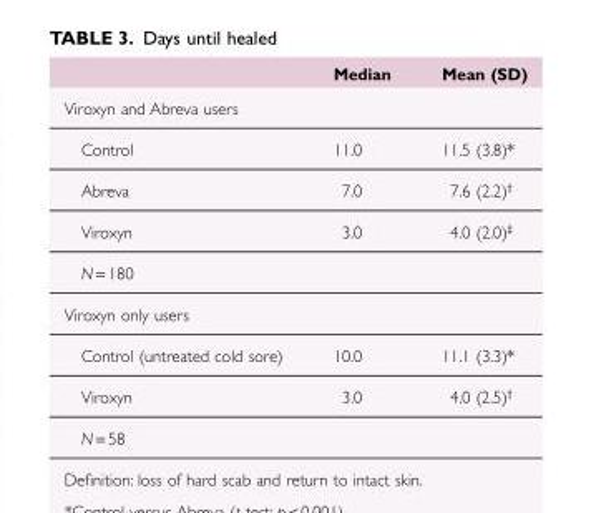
<table><thead><tr><td></td><td>Median</td><td>Mean (SD)</td></tr></thead><tbody><tr><td colspan="3">Viroxyn and Abreva users</td></tr><tr><td>Control</td><td>11.0</td><td>11.5 (3.8)*</td></tr><tr><td>Abreva</td><td>7.0</td><td>7.6 (2.2)†</td></tr><tr><td>Viroxyn</td><td>3.0</td><td>4.0 (2.0)‡</td></tr><tr><td colspan="3">N = 180</td></tr><tr><td colspan="3">Viroxyn only users</td></tr><tr><td>Control (untreated cold sore)</td><td>10.0</td><td>11.1 (3.3)*</td></tr><tr><td>Viroxyn</td><td>3.0</td><td>4.0 (2.5)†</td></tr><tr><td>N = 58</td><td></td><td></td></tr></tbody></table>